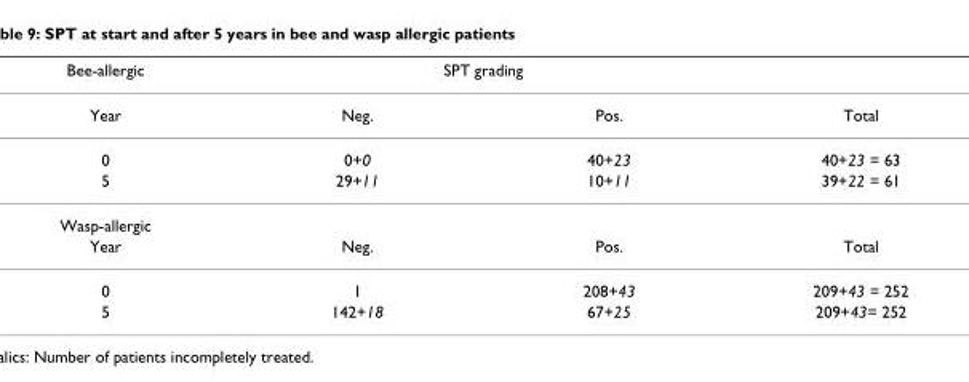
<table><thead><tr><td rowspan="2">Bee-allergic Year</td><td colspan="2">SPT grading</td><td rowspan="2">Total</td></tr><tr><td>Neg.</td><td>Pos.</td></tr></thead><tbody><tr><td>0</td><td>0+0</td><td>40+23</td><td>40+23 = 63</td></tr><tr><td>5</td><td>29+11</td><td>10+11</td><td>39+22 = 61</td></tr><tr><td colspan="4">Wasp-allergic</td></tr><tr><td>Year</td><td>Neg.</td><td>Pos.</td><td>Total</td></tr><tr><td>0</td><td>1</td><td>208+43</td><td>209+43 = 252</td></tr><tr><td>5</td><td>142+18</td><td>67+25</td><td>209+43= 252</td></tr></tbody></table>